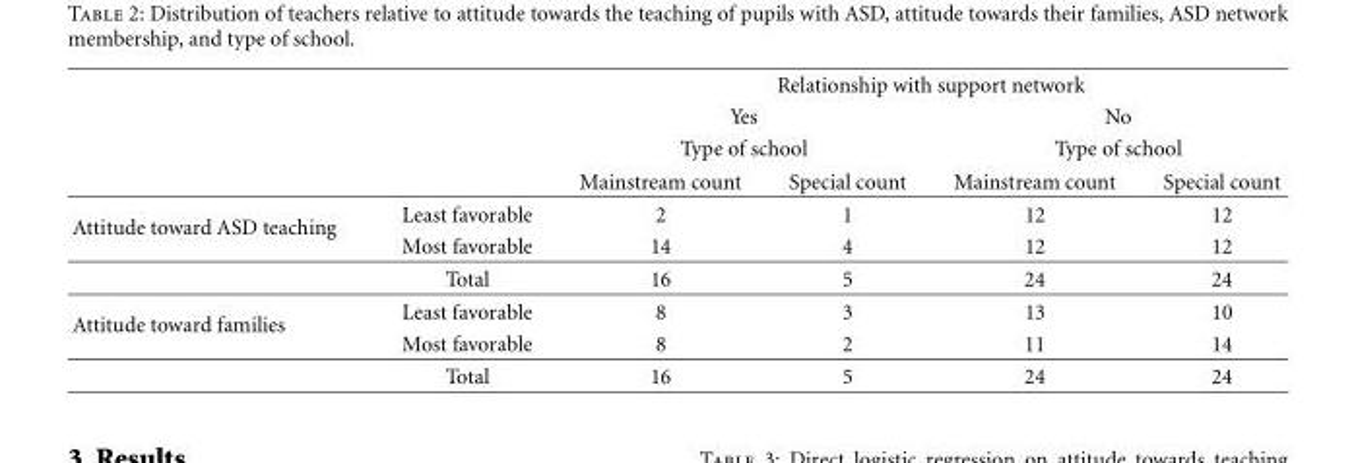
<table><thead><tr><td rowspan="4"></td><td rowspan="4"></td><td colspan="4">Relationship with support network</td></tr><tr><td rowspan="2" colspan="2">Yes Type of school</td><td rowspan="2" colspan="2">No Type of school</td></tr><tr></tr><tr><td>Mainstream count</td><td>Special count</td><td>Mainstream count</td><td>Special count</td></tr></thead><tbody><tr><td rowspan="3">Attitude toward ASD teaching</td><td>Least favorable</td><td>2</td><td>1</td><td>12</td><td>12</td></tr><tr><td>Most favorable</td><td>14</td><td>4</td><td>12</td><td>12</td></tr><tr><td>Total</td><td>16</td><td>5</td><td>24</td><td>24</td></tr><tr><td rowspan="3">Attitude toward families</td><td>Least favorable</td><td>8</td><td>3</td><td>13</td><td>10</td></tr><tr><td>Most favorable</td><td>8</td><td>2</td><td>11</td><td>14</td></tr><tr><td>Total</td><td>16</td><td>5</td><td>24</td><td>24</td></tr></tbody></table>